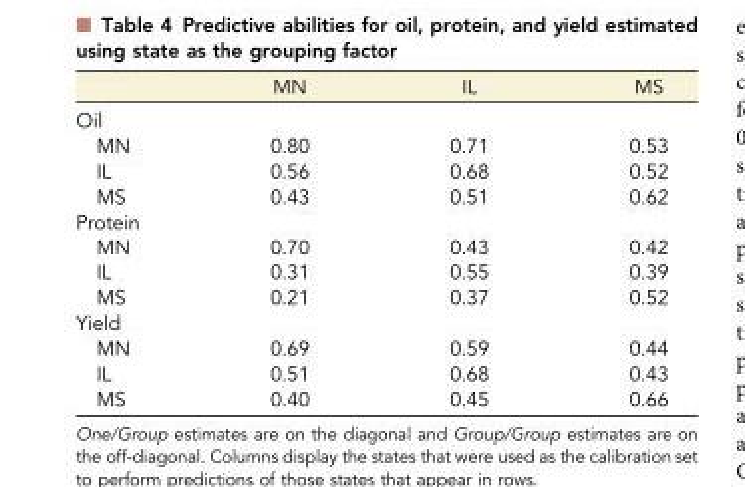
<table><thead><tr><td></td><td>MN</td><td>IL</td><td>MS</td></tr></thead><tbody><tr><td colspan="4">Oil</td></tr><tr><td>MN</td><td>0.80</td><td>0.71</td><td>0.53</td></tr><tr><td>IL</td><td>0.56</td><td>0.68</td><td>0.52</td></tr><tr><td>MS</td><td>0.43</td><td>0.51</td><td>0.62</td></tr><tr><td colspan="4">Protein</td></tr><tr><td>MN</td><td>0.70</td><td>0.43</td><td>0.42</td></tr><tr><td>IL</td><td>0.31</td><td>0.55</td><td>0.39</td></tr><tr><td>MS</td><td>0.21</td><td>0.37</td><td>0.52</td></tr><tr><td colspan="4">Yield</td></tr><tr><td>MN</td><td>0.69</td><td>0.59</td><td>0.44</td></tr><tr><td>IL</td><td>0.51</td><td>0.68</td><td>0.43</td></tr><tr><td>MS</td><td>0.40</td><td>0.45</td><td>0.66</td></tr></tbody></table>